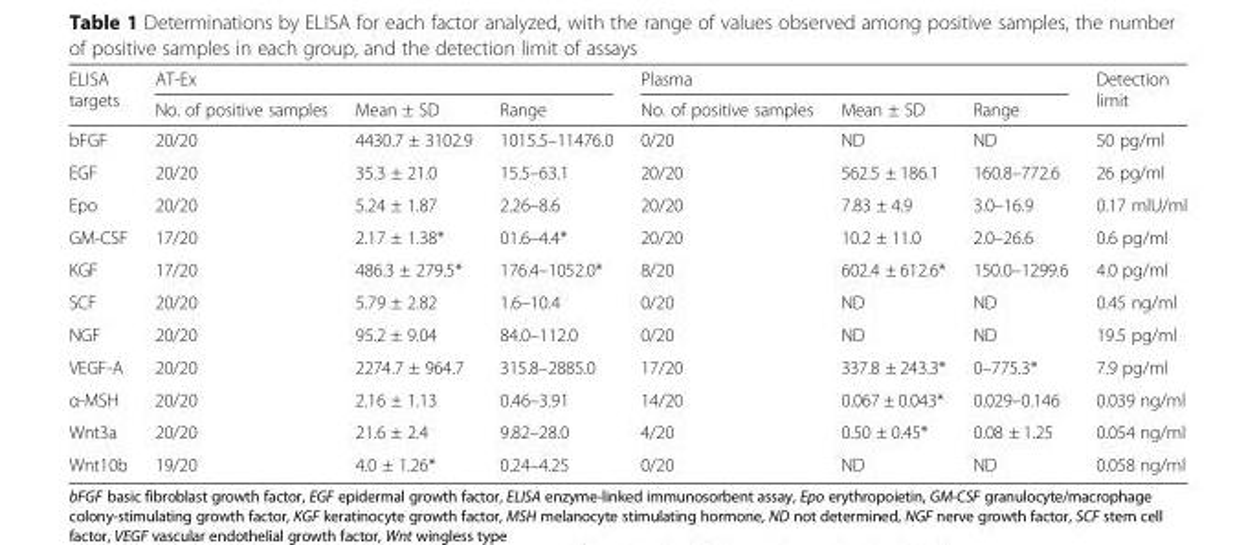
<table><thead><tr><td rowspan="2">ELISA targets</td><td colspan="3">AT-Ex</td><td colspan="3">Plasma</td><td rowspan="2">Detection limit</td></tr><tr><td>No. of positive samples</td><td>Mean ± SD</td><td>Range</td><td>No. of positive samples</td><td>Mean ± SD</td><td>Range</td></tr></thead><tbody><tr><td>bFGF</td><td>20/20</td><td>4430.7 ± 3102.9</td><td>1015.5–11476.0</td><td>0/20</td><td>ND</td><td>ND</td><td>50 pg/ml</td></tr><tr><td>EGF</td><td>20/20</td><td>35.3 ± 21.0</td><td>15.5–63.1</td><td>20/20</td><td>562.5 ± 186.1</td><td>160.8–772.6</td><td>26 pg/ml</td></tr><tr><td>Epo</td><td>20/20</td><td>5.24 ± 1.87</td><td>2.26–8.6</td><td>20/20</td><td>7.83 ± 4.9</td><td>3.0–16.9</td><td>0.17 mlU/ml</td></tr><tr><td>GM-CSF</td><td>17/20</td><td>2.17 ± 1.38*</td><td>01.6–4.4*</td><td>20/20</td><td>10.2 ± 11.0</td><td>2.0–26.6</td><td>0.6 pg/ml</td></tr><tr><td>KGF</td><td>17/20</td><td>486.3 ± 279.5*</td><td>176.4–1052.0*</td><td>8/20</td><td>602.4 ± 612.6*</td><td>150.0–1299.6</td><td>4.0 pg/ml</td></tr><tr><td>SCF</td><td>20/20</td><td>5.79 ± 2.82</td><td>1.6–10.4</td><td>0/20</td><td>ND</td><td>ND</td><td>0.45 ng/ml</td></tr><tr><td>NGF</td><td>20/20</td><td>95.2 ± 9.04</td><td>84.0–112.0</td><td>0/20</td><td>ND</td><td>ND</td><td>19.5 pg/ml</td></tr><tr><td>VEGF-A</td><td>20/20</td><td>2274.7 ± 964.7</td><td>315.8–2885.0</td><td>17/20</td><td>337.8 ± 243.3*</td><td>0–775.3*</td><td>7.9 pg/ml</td></tr><tr><td>α-MSH</td><td>20/20</td><td>2.16 ± 1.13</td><td>0.46–3.91</td><td>14/20</td><td>0.067 ± 0.043*</td><td>0.029–0.146</td><td>0.039 ng/ml</td></tr><tr><td>Wnt3a</td><td>20/20</td><td>21.6 ± 2.4</td><td>9.82–28.0</td><td>4/20</td><td>0.50 ± 0.45*</td><td>0.08 ± 1.25</td><td>0.054 ng/ml</td></tr><tr><td>Wnt10b</td><td>19/20</td><td>4.0 ± 1.26*</td><td>0.24–4.25</td><td>0/20</td><td>ND</td><td>ND</td><td>0.058 ng/ml</td></tr></tbody></table>